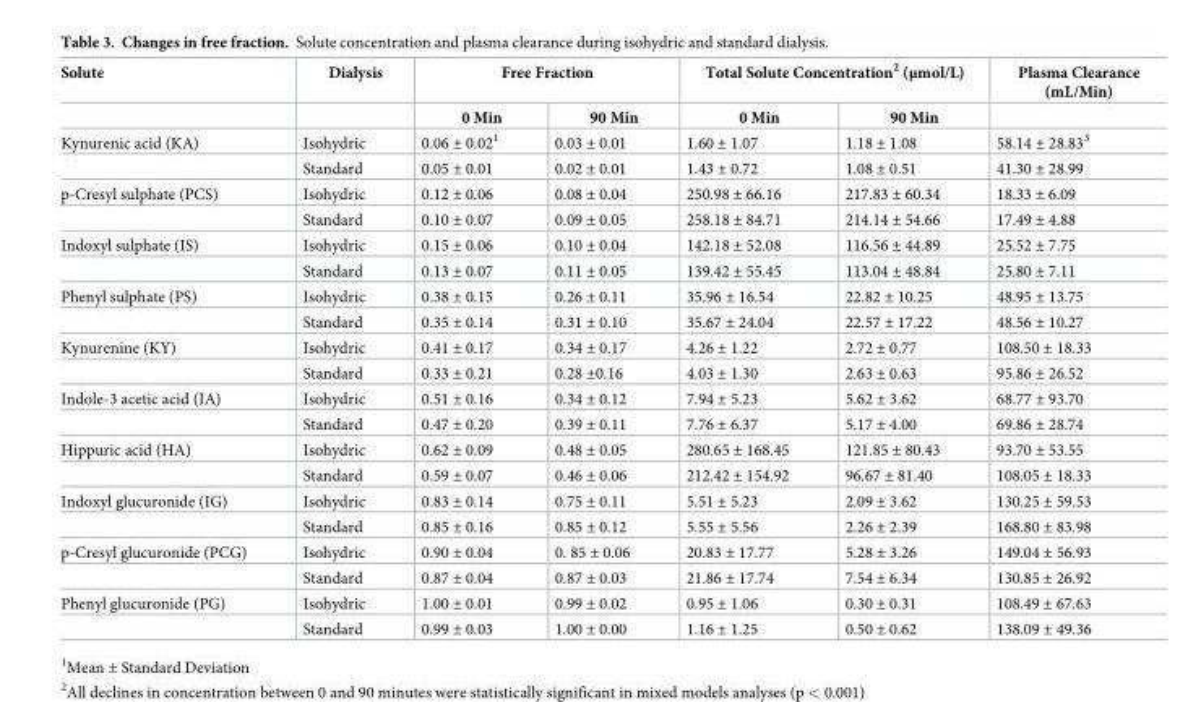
<table><thead><tr><td rowspan="2">Solute</td><td rowspan="2">Dialysis</td><td colspan="2">Free Fraction</td><td colspan="2">Total Solute Concentration<sup>2</sup> (μmol/L)</td><td rowspan="2">Plasma Clearance (mL/Min)</td></tr><tr><td>0 Min</td><td>90 Min</td><td>0 Min</td><td>90 Min</td></tr></thead><tbody><tr><td rowspan="2">Kynurenic acid (KA)</td><td>Isohydric</td><td>0.06 ± 0.02<sup>1</sup></td><td>0.03 ± 0.01</td><td>1.60 ± 1.07</td><td>1.18 ± 1.08</td><td>58.14 ± 28.83<sup>3</sup></td></tr><tr><td>Standard</td><td>0.05 ± 0.01</td><td>0.02 ± 0.01</td><td>1.43 ± 0.72</td><td>1.08 ± 0.51</td><td>41.30 ± 28.99</td></tr><tr><td rowspan="2">p-Cresyl sulphate (PCS)</td><td>Isohydric</td><td>0.12 ± 0.06</td><td>0.08 ± 0.04</td><td>250.98 ± 66.16</td><td>217.83 ± 60.34</td><td>18.33 ± 6.09</td></tr><tr><td>Standard</td><td>0.10 ± 0.07</td><td>0.09 ± 0.05</td><td>258.18 ± 84.71</td><td>214.14 ± 54.66</td><td>17.49 ± 4.88</td></tr><tr><td rowspan="2">Indoxyl sulphate (IS)</td><td>Isohydric</td><td>0.15 ± 0.06</td><td>0.10 ± 0.04</td><td>142.18 ± 52.08</td><td>116.56 ± 44.89</td><td>25.52 ± 7.75</td></tr><tr><td>Standard</td><td>0.13 ± 0.07</td><td>0.11 ± 0.05</td><td>139.42 ± 55.45</td><td>113.04 ± 48.84</td><td>25.80 ± 7.11</td></tr><tr><td rowspan="2">Phenyl sulphate (PS)</td><td>Isohydric</td><td>0.38 ± 0.15</td><td>0.26 ± 0.11</td><td>35.96 ± 16.54</td><td>22.82 ± 10.25</td><td>48.95 ± 13.75</td></tr><tr><td>Standard</td><td>0.35 ± 0.14</td><td>0.31 ± 0.10</td><td>35.67 ± 24.04</td><td>22.57 ± 17.22</td><td>48.56 ± 10.27</td></tr><tr><td rowspan="2">Kynurenine (KY)</td><td>Isohydric</td><td>0.41 ± 0.17</td><td>0.34 ± 0.17</td><td>4.26 ± 1.22</td><td>2.72 ± 0.77</td><td>108.50 ± 18.33</td></tr><tr><td>Standard</td><td>0.33 ± 0.21</td><td>0.28 ±0.16</td><td>4.03 ± 1.30</td><td>2.63 ± 0.63</td><td>95.86 ± 26.52</td></tr><tr><td rowspan="2">Indole-3 acetic acid (IA)</td><td>Isohydric</td><td>0.51 ± 0.16</td><td>0.34 ± 0.12</td><td>7.94 ± 5.23</td><td>5.62 ± 3.62</td><td>68.77 ± 93.70</td></tr><tr><td>Standard</td><td>0.47 ± 0.20</td><td>0.39 ± 0.11</td><td>7.76 ± 6.37</td><td>5.17 ± 4.00</td><td>69.86 ± 28.74</td></tr><tr><td rowspan="2">Hippuric acid (HA)</td><td>Isohydric</td><td>0.62 ± 0.09</td><td>0.48 ± 0.05</td><td>280.65 ± 168.45</td><td>121.85 ± 80.43</td><td>93.70 ± 53.55</td></tr><tr><td>Standard</td><td>0.59 ± 0.07</td><td>0.46 ± 0.06</td><td>212.42 ± 154.92</td><td>96.67 ± 81.40</td><td>108.05 ± 18.33</td></tr><tr><td rowspan="2">Indoxyl glucuronide (IG)</td><td>Isohydric</td><td>0.83 ± 0.14</td><td>0.75 ± 0.11</td><td>5.51 ± 5.23</td><td>2.09 ± 3.62</td><td>130.25 ± 59.53</td></tr><tr><td>Standard</td><td>0.85 ± 0.16</td><td>0.85 ± 0.12</td><td>5.55 ± 5.56</td><td>2.26 ± 2.39</td><td>168.80 ± 83.98</td></tr><tr><td rowspan="2">p-Cresyl glucuronide (PCG)</td><td>Isohydric</td><td>0.90 ± 0.04</td><td>0. 85 ± 0.06</td><td>20.83 ± 17.77</td><td>5.28 ± 3.26</td><td>149.04 ± 56.93</td></tr><tr><td>Standard</td><td>0.87 ± 0.04</td><td>0.87 ± 0.03</td><td>21.86 ± 17.74</td><td>7.54 ± 6.34</td><td>130.85 ± 26.92</td></tr><tr><td rowspan="2">Phenyl glucuronide (PG)</td><td>Isohydric</td><td>1.00 ± 0.01</td><td>0.99 ± 0.02</td><td>0.95 ± 1.06</td><td>0.30 ± 0.31</td><td>108.49 ± 67.63</td></tr><tr><td>Standard</td><td>0.99 ± 0.03</td><td>1.00 ± 0.00</td><td>1.16 ± 1.25</td><td>0.50 ± 0.62</td><td>138.09 ± 49.36</td></tr></tbody></table>